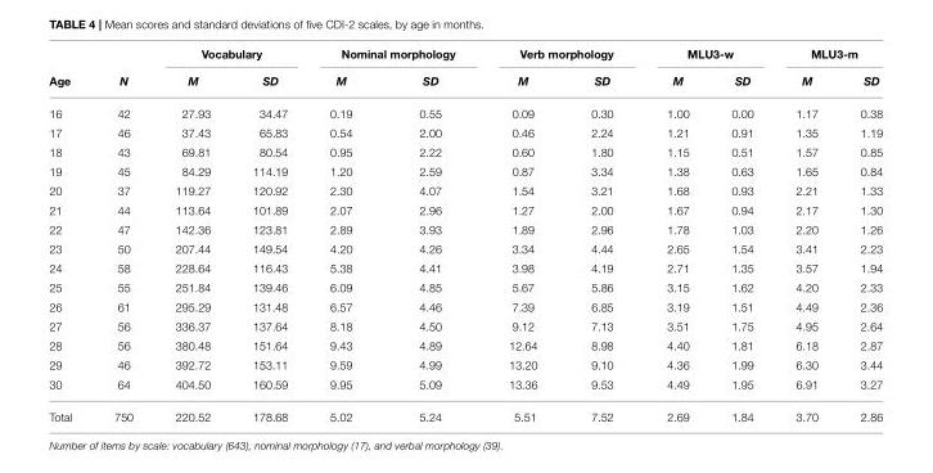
<table><thead><tr><td rowspan="2">Age</td><td rowspan="2">N</td><td colspan="2">Vocabulary</td><td colspan="2">Nominal morphology</td><td colspan="2">Verb morphology</td><td colspan="2">MLU3-w</td><td colspan="2">MLU3-m</td></tr><tr><td>M</td><td>SD</td><td>M</td><td>SD</td><td>M</td><td>SD</td><td>M</td><td>SD</td><td>M</td><td>SD</td></tr></thead><tbody><tr><td>16</td><td>42</td><td>27.93</td><td>34.47</td><td>0.19</td><td>0.55</td><td>0.09</td><td>0.30</td><td>1.00</td><td>0.00</td><td>1.17</td><td>0.38</td></tr><tr><td>17</td><td>46</td><td>37.43</td><td>65.83</td><td>0.54</td><td>2.00</td><td>0.46</td><td>2.24</td><td>1.21</td><td>0.91</td><td>1.35</td><td>1.19</td></tr><tr><td>18</td><td>43</td><td>69.81</td><td>80.54</td><td>0.95</td><td>2.22</td><td>0.60</td><td>1.80</td><td>1.15</td><td>0.51</td><td>1.57</td><td>0.85</td></tr><tr><td>19</td><td>45</td><td>84.29</td><td>114.19</td><td>1.20</td><td>2.59</td><td>0.87</td><td>3.34</td><td>1.38</td><td>0.63</td><td>1.65</td><td>0.84</td></tr><tr><td>20</td><td>37</td><td>119.27</td><td>120.92</td><td>2.30</td><td>4.07</td><td>1.54</td><td>3.21</td><td>1.68</td><td>0.93</td><td>2.21</td><td>1.33</td></tr><tr><td>21</td><td>44</td><td>113.64</td><td>101.89</td><td>2.07</td><td>2.96</td><td>1.27</td><td>2.00</td><td>1.67</td><td>0.94</td><td>2.17</td><td>1.30</td></tr><tr><td>22</td><td>47</td><td>142.36</td><td>123.81</td><td>2.89</td><td>3.93</td><td>1.89</td><td>2.96</td><td>1.78</td><td>1.03</td><td>2.20</td><td>1.26</td></tr><tr><td>23</td><td>50</td><td>207.44</td><td>149.54</td><td>4.20</td><td>4.26</td><td>3.34</td><td>4.44</td><td>2.65</td><td>1.54</td><td>3.41</td><td>2.23</td></tr><tr><td>24</td><td>58</td><td>228.64</td><td>116.43</td><td>5.38</td><td>4.41</td><td>3.98</td><td>4.19</td><td>2.71</td><td>1.35</td><td>3.57</td><td>1.94</td></tr><tr><td>25</td><td>55</td><td>251.84</td><td>139.46</td><td>6.09</td><td>4.85</td><td>5.67</td><td>5.86</td><td>3.15</td><td>1.62</td><td>4.20</td><td>2.33</td></tr><tr><td>26</td><td>61</td><td>295.29</td><td>131.48</td><td>6.57</td><td>4.46</td><td>7.39</td><td>6.85</td><td>3.19</td><td>1.51</td><td>4.49</td><td>2.36</td></tr><tr><td>27</td><td>56</td><td>336.37</td><td>137.64</td><td>8.18</td><td>4.50</td><td>9.12</td><td>7.13</td><td>3.51</td><td>1.75</td><td>4.95</td><td>2.64</td></tr><tr><td>28</td><td>56</td><td>380.48</td><td>151.64</td><td>9.43</td><td>4.89</td><td>12.64</td><td>8.98</td><td>4.40</td><td>1.81</td><td>6.18</td><td>2.87</td></tr><tr><td>29</td><td>46</td><td>392.72</td><td>153.11</td><td>9.59</td><td>4.99</td><td>13.20</td><td>9.10</td><td>4.36</td><td>1.99</td><td>6.30</td><td>3.44</td></tr><tr><td>30</td><td>64</td><td>404.50</td><td>160.59</td><td>9.95</td><td>5.09</td><td>13.36</td><td>9.53</td><td>4.49</td><td>1.95</td><td>6.91</td><td>3.27</td></tr><tr><td>Total</td><td>750</td><td>220.52</td><td>178.68</td><td>5.02</td><td>5.24</td><td>5.51</td><td>7.52</td><td>2.69</td><td>1.84</td><td>3.70</td><td>2.86</td></tr></tbody></table>